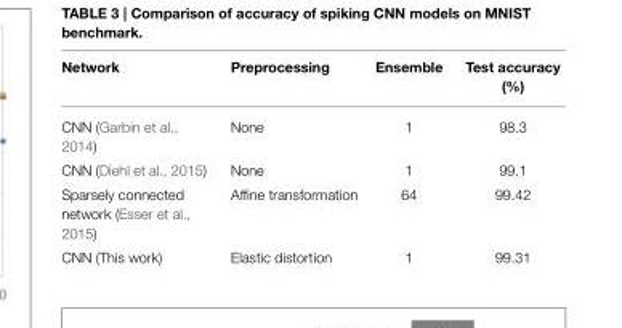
<table><thead><tr><td>Network</td><td>Preprocessing</td><td>Ensemble</td><td>Test accuracy (%)</td></tr></thead><tbody><tr><td>CNN (Garbin et al., 2014)</td><td>None</td><td>1</td><td>98.3</td></tr><tr><td>CNN (Diehl et al., 2015)</td><td>None</td><td>1</td><td>99.1</td></tr><tr><td>Sparsely connected network (Esser et al., 2015)</td><td>Affine transformation</td><td>64</td><td>99.42</td></tr><tr><td>CNN (This work)</td><td>Elastic distortion</td><td>1</td><td>99.31</td></tr></tbody></table>